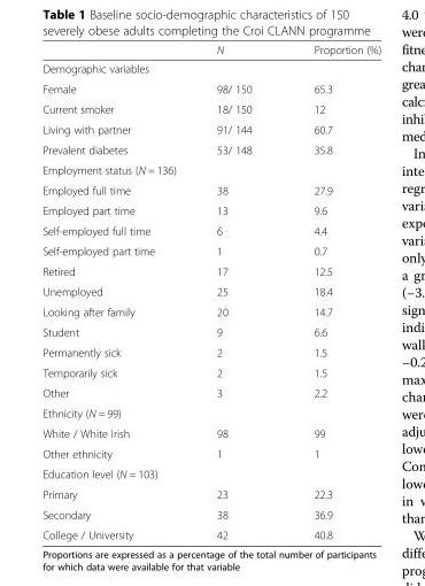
<table><thead><tr><td></td><td>N</td><td>Proportion (%)</td></tr></thead><tbody><tr><td colspan="3">Demographic variables</td></tr><tr><td>Female</td><td>98/ 150</td><td>65.3</td></tr><tr><td>Current smoker</td><td>18/ 150</td><td>12</td></tr><tr><td>Living with partner</td><td>91/ 144</td><td>60.7</td></tr><tr><td>Prevalent diabetes</td><td>53/ 148</td><td>35.8</td></tr><tr><td colspan="3">Employment status (N = 136)</td></tr><tr><td>Employed full time</td><td>38</td><td>27.9</td></tr><tr><td>Employed part time</td><td>13</td><td>9.6</td></tr><tr><td>Self-employed full time</td><td>6</td><td>4.4</td></tr><tr><td>Self-employed part time</td><td>1</td><td>0.7</td></tr><tr><td>Retired</td><td>17</td><td>12.5</td></tr><tr><td>Unemployed</td><td>25</td><td>18.4</td></tr><tr><td>Looking after family</td><td>20</td><td>14.7</td></tr><tr><td>Student</td><td>9</td><td>6.6</td></tr><tr><td>Permanently sick</td><td>2</td><td>1.5</td></tr><tr><td>Temporarily sick</td><td>2</td><td>1.5</td></tr><tr><td>Other</td><td>3</td><td>2.2</td></tr><tr><td colspan="3">Ethnicity (N = 99)</td></tr><tr><td>White / White Irish</td><td>98</td><td>99</td></tr><tr><td>Other ethnicity</td><td>1</td><td>1</td></tr><tr><td colspan="3">Education level (N = 103)</td></tr><tr><td>Primary</td><td>23</td><td>22.3</td></tr><tr><td>Secondary</td><td>38</td><td>36.9</td></tr><tr><td>College / University</td><td>42</td><td>40.8</td></tr></tbody></table>